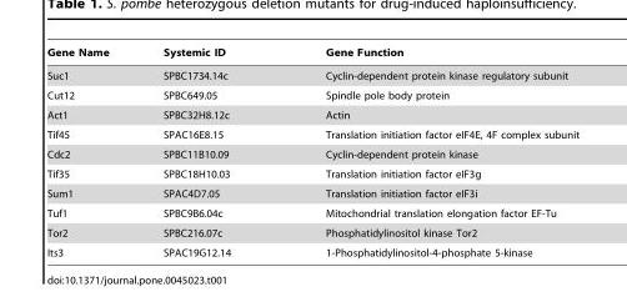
<table><thead><tr><td>Gene Name</td><td>Systemic ID</td><td>Gene Function</td></tr></thead><tbody><tr><td>Suc1</td><td>SPBC1734.14c</td><td>Cyclin-dependent protein kinase regulatory subunit</td></tr><tr><td>Cut12</td><td>SPBC649.05</td><td>Spindle pole body protein</td></tr><tr><td>Act1</td><td>SPBC32H8.12c</td><td>Actin</td></tr><tr><td>Tif45</td><td>SPAC16E8.15</td><td>Translation initiation factor eIF4E, 4F complex subunit</td></tr><tr><td>Cdc2</td><td>SPBC11B10.09</td><td>Cyclin-dependent protein kinase</td></tr><tr><td>Tif35</td><td>SPBC18H10.03</td><td>Translation initiation factor eIF3g</td></tr><tr><td>Sum1</td><td>SPAC4D7.05</td><td>Translation initiation factor eIF3i</td></tr><tr><td>Tuf1</td><td>SPBC9B6.04c</td><td>Mitochondrial translation elongation factor EF-Tu</td></tr><tr><td>Tor2</td><td>SPBC216.07c</td><td>Phosphatidylinositol kinase Tor2</td></tr><tr><td>Its3</td><td>SPAC19G12.14</td><td>1-Phosphatidylinositol-4-phosphate 5-kinase</td></tr></tbody></table>